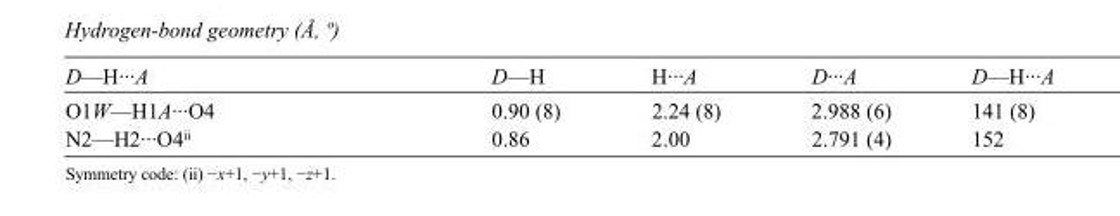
<table><tbody><tr><td>D—H···A</td><td>D—H</td><td>H···A</td><td>D···A</td><td>D—H···A</td></tr><tr><td>O1W—H1A···O4</td><td>0.90 (8)</td><td>2.24 (8)</td><td>2.988 (6)</td><td>141 (8)</td></tr><tr><td>N2—H2···O4<sup>ii</sup></td><td>0.86</td><td>2.00</td><td>2.791 (4)</td><td>152</td></tr></tbody></table>